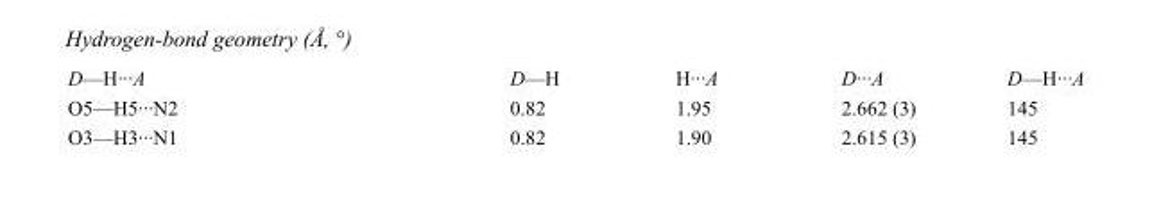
<table><tbody><tr><td>D—H···A</td><td>D—H</td><td>H···A</td><td>D···A</td><td>D—H···A</td></tr><tr><td>O5—H5···N2</td><td>0.82</td><td>1.95</td><td>2.662 (3)</td><td>145</td></tr><tr><td>O3—H3···N1</td><td>0.82</td><td>1.90</td><td>2.615 (3)</td><td>145</td></tr></tbody></table>